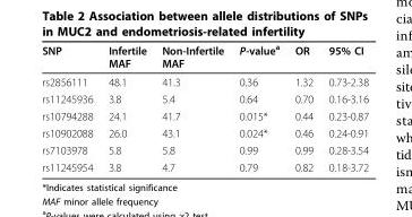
<table><thead><tr><td>SNP</td><td>Infertile MAF</td><td>Non-Infertile MAF</td><td>P-value<sup>a</sup></td><td>OR</td><td>95% CI</td></tr></thead><tbody><tr><td>rs2856111</td><td>48.1</td><td>41.3</td><td>0.36</td><td>1.32</td><td>0.73-2.38</td></tr><tr><td>rs11245936</td><td>3.8</td><td>5.4</td><td>0.64</td><td>0.70</td><td>0.16-3.16</td></tr><tr><td>rs10794288</td><td>24.1</td><td>41.7</td><td>0.015*</td><td>0.44</td><td>0.23-0.87</td></tr><tr><td>rs10902088</td><td>26.0</td><td>43.1</td><td>0.024*</td><td>0.46</td><td>0.24-0.91</td></tr><tr><td>rs7103978</td><td>5.8</td><td>5.8</td><td>0.99</td><td>0.99</td><td>0.28-3.54</td></tr><tr><td>rs11245954</td><td>3.8</td><td>4.7</td><td>0.79</td><td>0.82</td><td>0.18-3.72</td></tr></tbody></table>